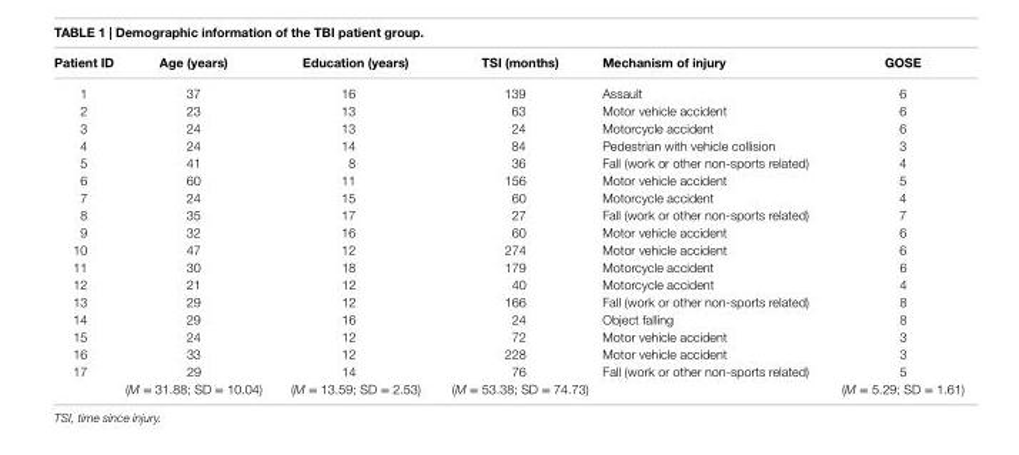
<table><thead><tr><td>Patient iD</td><td>age (years)</td><td>education (years)</td><td>Tsi (months)</td><td>Mechanism of injury</td><td>gOse</td></tr></thead><tbody><tr><td>1</td><td>37</td><td>16</td><td>139</td><td>Assault</td><td>6</td></tr><tr><td>2</td><td>23</td><td>13</td><td>63</td><td>Motor vehicle accident</td><td>6</td></tr><tr><td>3</td><td>24</td><td>13</td><td>24</td><td>Motorcycle accident</td><td>6</td></tr><tr><td>4</td><td>24</td><td>14</td><td>84</td><td>Pedestrian with vehicle collision</td><td>3</td></tr><tr><td>5</td><td>41</td><td>8</td><td>36</td><td>Fall (work or other non-sports related)</td><td>4</td></tr><tr><td>6</td><td>60</td><td>11</td><td>156</td><td>Motor vehicle accident</td><td>5</td></tr><tr><td>7</td><td>24</td><td>15</td><td>60</td><td>Motorcycle accident</td><td>4</td></tr><tr><td>8</td><td>35</td><td>17</td><td>27</td><td>Fall (work or other non-sports related)</td><td>7</td></tr><tr><td>9</td><td>32</td><td>16</td><td>60</td><td>Motor vehicle accident</td><td>6</td></tr><tr><td>10</td><td>47</td><td>12</td><td>274</td><td>Motor vehicle accident</td><td>6</td></tr><tr><td>11</td><td>30</td><td>18</td><td>179</td><td>Motorcycle accident</td><td>6</td></tr><tr><td>12</td><td>21</td><td>12</td><td>40</td><td>Motorcycle accident</td><td>4</td></tr><tr><td>13</td><td>29</td><td>12</td><td>166</td><td>Fall (work or other non-sports related)</td><td>8</td></tr><tr><td>14</td><td>29</td><td>16</td><td>24</td><td>Object falling</td><td>8</td></tr><tr><td>15</td><td>24</td><td>12</td><td>72</td><td>Motor vehicle accident</td><td>3</td></tr><tr><td>16</td><td>33</td><td>12</td><td>228</td><td>Motor vehicle accident</td><td>3</td></tr><tr><td rowspan="2">17</td><td>29</td><td>14</td><td>76</td><td>Fall (work or other non-sports related)</td><td>5</td></tr><tr><td>(M = 31.88; SD = 10.04)</td><td>(M = 13.59; SD = 2.53)</td><td>(M = 53.38; SD = 74.73)</td><td></td><td>(M = 5.29; SD = 1.61)</td></tr></tbody></table>